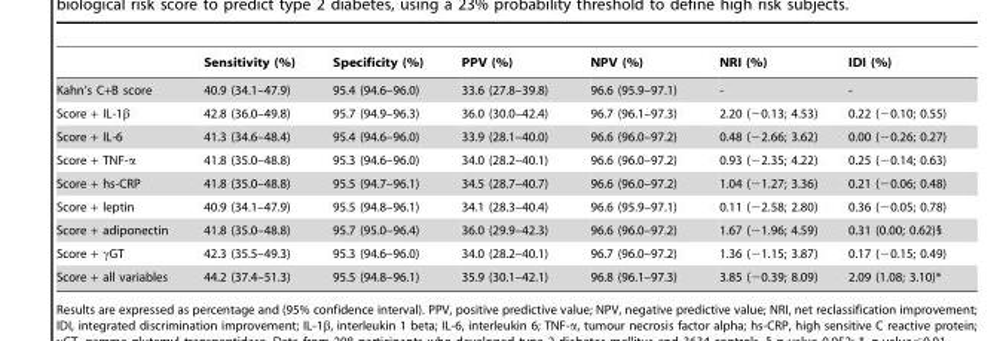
<table><thead><tr><td></td><td>Sensitivity (%)</td><td>Specificity (%)</td><td>PPV (%)</td><td>NPV (%)</td><td>NRI (%)</td><td>IDI (%)</td></tr></thead><tbody><tr><td>Kahn’s C+B score</td><td>40.9 (34.1–47.9)</td><td>95.4 (94.6–96.0)</td><td>33.6 (27.8–39.8)</td><td>96.6 (95.9–97.1)</td><td>-</td><td>-</td></tr><tr><td>Score + IL-1β</td><td>42.8 (36.0–49.8)</td><td>95.7 (94.9–96.3)</td><td>36.0 (30.0–42.4)</td><td>96.7 (96.1–97.3)</td><td>2.20 (−0.13; 4.53)</td><td>0.22 (−0.10; 0.55)</td></tr><tr><td>Score + IL-6</td><td>41.3 (34.6–48.4)</td><td>95.4 (94.6–96.0)</td><td>33.9 (28.1–40.0)</td><td>96.6 (96.0–97.2)</td><td>0.48 (−2.66; 3.62)</td><td>0.00 (−0.26; 0.27)</td></tr><tr><td>Score + TNF-α</td><td>41.8 (35.0–48.8)</td><td>95.3 (94.6–96.0)</td><td>34.0 (28.2–40.1)</td><td>96.6 (96.0–97.2)</td><td>0.93 (−2.35; 4.22)</td><td>0.25 (−0.14; 0.63)</td></tr><tr><td>Score + hs-CRP</td><td>41.8 (35.0–48.8)</td><td>95.5 (94.7–96.1)</td><td>34.5 (28.7–40.7)</td><td>96.6 (96.0–97.2)</td><td>1.04 (−1.27; 3.36)</td><td>0.21 (−0.06; 0.48)</td></tr><tr><td>Score + leptin</td><td>40.9 (34.1–47.9)</td><td>95.5 (94.8–96.1)</td><td>34.1 (28.3–40.4)</td><td>96.6 (95.9–97.1)</td><td>0.11 (−2.58; 2.80)</td><td>0.36 (−0.05; 0.78)</td></tr><tr><td>Score + adiponectin</td><td>41.8 (35.0–48.8)</td><td>95.7 (95.0–96.4)</td><td>36.0 (29.9–42.3)</td><td>96.6 (96.0–97.2)</td><td>1.67 (−1.96; 4.59)</td><td>0.31 (0.00; 0.62)§</td></tr><tr><td>Score + γGT</td><td>42.3 (35.5–49.3)</td><td>95.3 (94.6–96.0)</td><td>34.0 (28.2–40.1)</td><td>96.7 (96.0–97.2)</td><td>1.36 (−1.15; 3.87)</td><td>0.17 (−0.15; 0.49)</td></tr><tr><td>Score + all variables</td><td>44.2 (37.4–51.3)</td><td>95.5 (94.8–96.1)</td><td>35.9 (30.1–42.1)</td><td>96.8 (96.1–97.3)</td><td>3.85 (−0.39; 8.09)</td><td>2.09 (1.08; 3.10)*</td></tr></tbody></table>